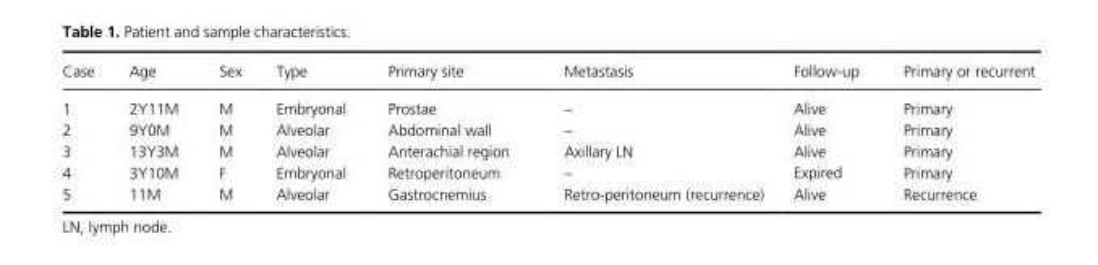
<table><thead><tr><td>Case</td><td>Age</td><td>Sex</td><td>Type</td><td>Primary site</td><td>Metastasis</td><td>Follow- up</td><td>Primary or recurrent</td></tr></thead><tbody><tr><td>1</td><td>2Y11M</td><td>M</td><td>Embryonal</td><td>Prostae</td><td>–</td><td>Alive</td><td>Primary</td></tr><tr><td>2</td><td>9Y0M</td><td>M</td><td>Alveolar</td><td>Abdominal wall</td><td>–</td><td>Alive</td><td>Primary</td></tr><tr><td>3</td><td>13Y3M</td><td>M</td><td>Alveolar</td><td>Anterachial region</td><td>Axillary LN</td><td>Alive</td><td>Primary</td></tr><tr><td>4</td><td>3Y10M</td><td>F</td><td>Embryonal</td><td>Retroperitoneum</td><td>–</td><td>Expired</td><td>Primary</td></tr><tr><td>5</td><td>11M</td><td>M</td><td>Alveolar</td><td>Gastrocnemius</td><td>Retro- peritoneum (recurrence)</td><td>Alive</td><td>Recurrence</td></tr></tbody></table>